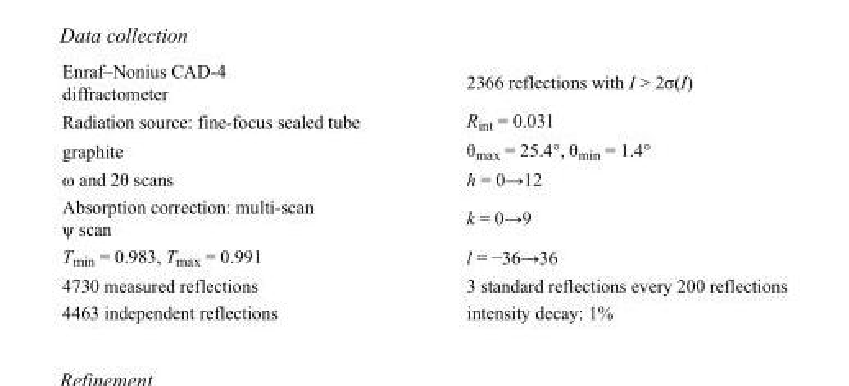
<table><tbody><tr><td>Enraf–Nonius CAD-4 diffractometer</td><td>2366 reflections with I &gt; 2σ(I)</td></tr><tr><td>Radiation source: fine-focus sealed tube</td><td>R<sub>int</sub> = 0.031</td></tr><tr><td>graphite</td><td>θ<sub>max</sub> = 25.4°, θ<sub>min</sub> = 1.4°</td></tr><tr><td>ω and 2θ scans</td><td>h = 0→12</td></tr><tr><td>Absorption correction: multi-scan ψ scan</td><td>k = 0→9</td></tr><tr><td>T<sub>min</sub> = 0.983, T<sub>max</sub> = 0.991</td><td>l = −36→36</td></tr><tr><td>4730 measured reflections</td><td>3 standard reflections every 200 reflections</td></tr><tr><td>4463 independent reflections</td><td>intensity decay: 1%</td></tr></tbody></table>